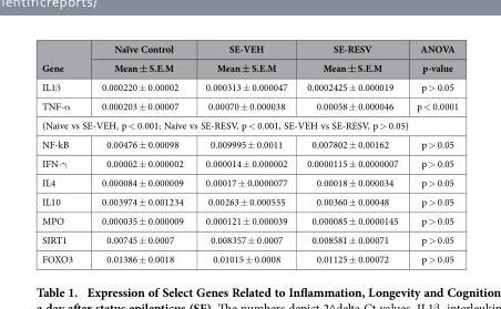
<table><thead><tr><td rowspan="2">Gene</td><td rowspan="2">Naïve Control Mean ± S.E.M</td><td rowspan="2">SE-VEH Mean ± S.E.M</td><td rowspan="2">SE-RESV Mean ± S.E.M</td><td rowspan="2">ANOVA p-value</td></tr><tr></tr></thead><tbody><tr><td>IL1β</td><td>0.000220 ± 0.00002</td><td>0.000313 ± 0.000047</td><td>0.0002425 ± 0.000019</td><td>p &gt; 0.05</td></tr><tr><td>TNF-α</td><td>0.000203 ± 0.00007</td><td>0.00070 ± 0.000038</td><td>0.00058 ± 0.000046</td><td>p &lt; 0.0001</td></tr><tr><td colspan="5">(Naive vs SE-VEH, p &lt; 0.001; Naive vs SE-RESV, p &lt; 0.001, SE-VEH vs SE-RESV, p &gt; 0.05)</td></tr><tr><td>NF-kB</td><td>0.00476 ± 0.00098</td><td>0.009995 ± 0.0011</td><td>0.007802 ± 0.00162</td><td>p &gt; 0.05</td></tr><tr><td>IFN-γ</td><td>0.00002 ± 0.000002</td><td>0.000014 ± 0.000002</td><td>0.0000115 ± 0.0000007</td><td>p &gt; 0.05</td></tr><tr><td>IL4</td><td>0.000084 ± 0.000009</td><td>0.00017 ± 0.0000077</td><td>0.00018 ± 0.000034</td><td>p &gt; 0.05</td></tr><tr><td>IL10</td><td>0.003974 ± 0.001234</td><td>0.00263 ± 0.000555</td><td>0.00360 ± 0.00048</td><td>p &gt; 0.05</td></tr><tr><td>MPO</td><td>0.000035 ± 0.000009</td><td>0.000121 ± 0.000039</td><td>0.000085 ± 0.0000145</td><td>p &gt; 0.05</td></tr><tr><td>SIRT1</td><td>0.00745 ± 0.0007</td><td>0.008357 ± 0.0007</td><td>0.008581 ± 0.00071</td><td>p &gt; 0.05</td></tr><tr><td>FOXO3</td><td>0.01386 ± 0.0018</td><td>0.01015 ± 0.0008</td><td>0.01125 ± 0.00072</td><td>p &gt; 0.05</td></tr></tbody></table>